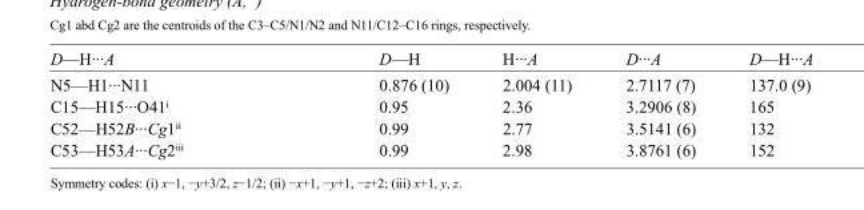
<table><tbody><tr><td>D—H···A</td><td>D—H</td><td>H···A</td><td>D···A</td><td>D—H···A</td></tr><tr><td>N5—H1···N11</td><td>0.876 (10)</td><td>2.004 (11)</td><td>2.7117 (7)</td><td>137.0 (9)</td></tr><tr><td>C15—H15···O41<sup>i</sup></td><td>0.95</td><td>2.36</td><td>3.2906 (8)</td><td>165</td></tr><tr><td>C52—H52B···Cg1<sup>ii</sup></td><td>0.99</td><td>2.77</td><td>3.5141 (6)</td><td>132</td></tr><tr><td>C53—H53A···Cg2<sup>iii</sup></td><td>0.99</td><td>2.98</td><td>3.8761 (6)</td><td>152</td></tr></tbody></table>